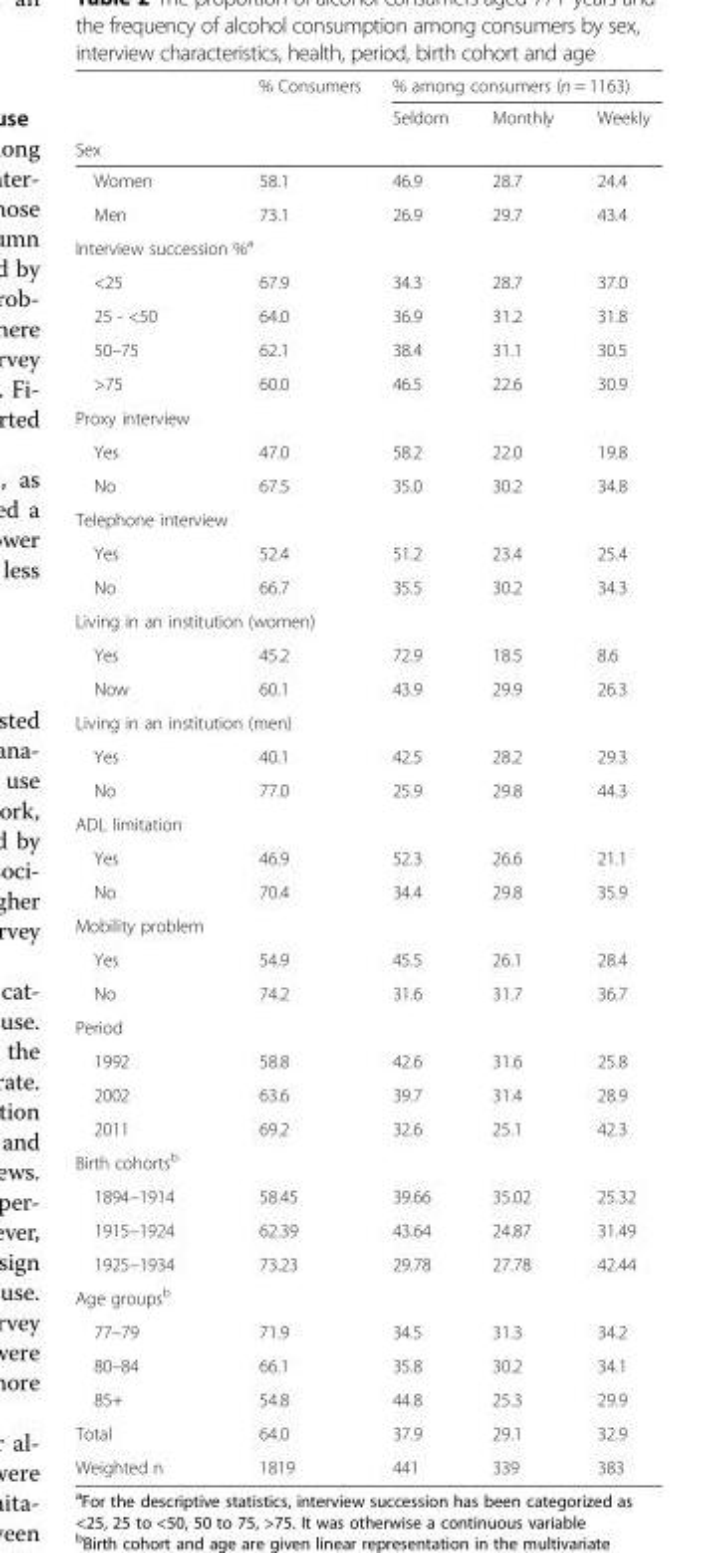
<table><thead><tr><td rowspan="2"></td><td rowspan="2">% Consumers</td><td colspan="3">% among consumers (n = 1163)</td></tr><tr><td rowspan="2">Seldom</td><td rowspan="2">Monthly</td><td rowspan="2">Weekly</td></tr><tr><td colspan="2">Sex</td></tr></thead><tbody><tr><td>Women</td><td>58.1</td><td>46.9</td><td>28.7</td><td>24.4</td></tr><tr><td>Men</td><td>73.1</td><td>26.9</td><td>29.7</td><td>43.4</td></tr><tr><td colspan="5">Interview succession %<sup>a</sup></td></tr><tr><td>&lt;25</td><td>67.9</td><td>34.3</td><td>28.7</td><td>37.0</td></tr><tr><td>25 - &lt;50</td><td>64.0</td><td>36.9</td><td>31.2</td><td>31.8</td></tr><tr><td>50–75</td><td>62.1</td><td>38.4</td><td>31.1</td><td>30.5</td></tr><tr><td>&gt;75</td><td>60.0</td><td>46.5</td><td>22.6</td><td>30.9</td></tr><tr><td colspan="5">Proxy interview</td></tr><tr><td>Yes</td><td>47.0</td><td>58.2</td><td>22.0</td><td>19.8</td></tr><tr><td>No</td><td>67.5</td><td>35.0</td><td>30.2</td><td>34.8</td></tr><tr><td colspan="5">Telephone interview</td></tr><tr><td>Yes</td><td>52.4</td><td>51.2</td><td>23.4</td><td>25.4</td></tr><tr><td>No</td><td>66.7</td><td>35.5</td><td>30.2</td><td>34.3</td></tr><tr><td colspan="5">Living in an institution (women)</td></tr><tr><td>Yes</td><td>45.2</td><td>72.9</td><td>18.5</td><td>8.6</td></tr><tr><td>Now</td><td>60.1</td><td>43.9</td><td>29.9</td><td>26.3</td></tr><tr><td colspan="5">Living in an institution (men)</td></tr><tr><td>Yes</td><td>40.1</td><td>42.5</td><td>28.2</td><td>29.3</td></tr><tr><td>No</td><td>77.0</td><td>25.9</td><td>29.8</td><td>44.3</td></tr><tr><td colspan="5">ADL limitation</td></tr><tr><td>Yes</td><td>46.9</td><td>52.3</td><td>26.6</td><td>21.1</td></tr><tr><td>No</td><td>70.4</td><td>34.4</td><td>29.8</td><td>35.9</td></tr><tr><td colspan="5">Mobility problem</td></tr><tr><td>Yes</td><td>54.9</td><td>45.5</td><td>26.1</td><td>28.4</td></tr><tr><td>No</td><td>74.2</td><td>31.6</td><td>31.7</td><td>36.7</td></tr><tr><td colspan="5">Period</td></tr><tr><td>1992</td><td>58.8</td><td>42.6</td><td>31.6</td><td>25.8</td></tr><tr><td>2002</td><td>63.6</td><td>39.7</td><td>31.4</td><td>28.9</td></tr><tr><td>2011</td><td>69.2</td><td>32.6</td><td>25.1</td><td>42.3</td></tr><tr><td colspan="5">Birth cohorts<sup>b</sup></td></tr><tr><td>1894–1914</td><td>58.45</td><td>39.66</td><td>35.02</td><td>25.32</td></tr><tr><td>1915–1924</td><td>62.39</td><td>43.64</td><td>24.87</td><td>31.49</td></tr><tr><td>1925–1934</td><td>73.23</td><td>29.78</td><td>27.78</td><td>42.44</td></tr><tr><td colspan="5">Age groups<sup>b</sup></td></tr><tr><td>77–79</td><td>71.9</td><td>34.5</td><td>31.3</td><td>34.2</td></tr><tr><td>80–84</td><td>66.1</td><td>35.8</td><td>30.2</td><td>34.1</td></tr><tr><td>85+</td><td>54.8</td><td>44.8</td><td>25.3</td><td>29.9</td></tr><tr><td>Total</td><td>64.0</td><td>37.9</td><td>29.1</td><td>32.9</td></tr><tr><td>Weighted n</td><td>1819</td><td>441</td><td>339</td><td>383</td></tr></tbody></table>